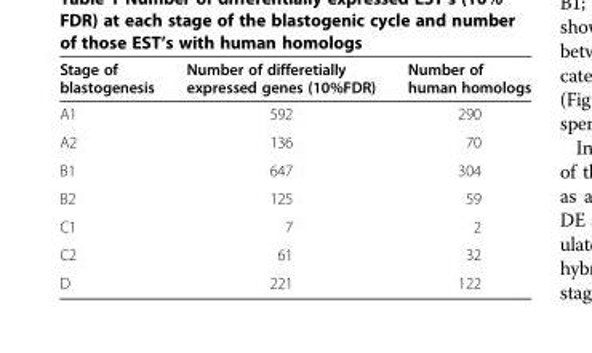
<table><thead><tr><td>Stage of blastogenesis</td><td>Number of differetially expressed genes (10%FDR)</td><td>Number of human homologs</td></tr></thead><tbody><tr><td>A1</td><td>592</td><td>290</td></tr><tr><td>A2</td><td>136</td><td>70</td></tr><tr><td>B1</td><td>647</td><td>304</td></tr><tr><td>B2</td><td>125</td><td>59</td></tr><tr><td>C1</td><td>7</td><td>2</td></tr><tr><td>C2</td><td>61</td><td>32</td></tr><tr><td>D</td><td>221</td><td>122</td></tr></tbody></table>